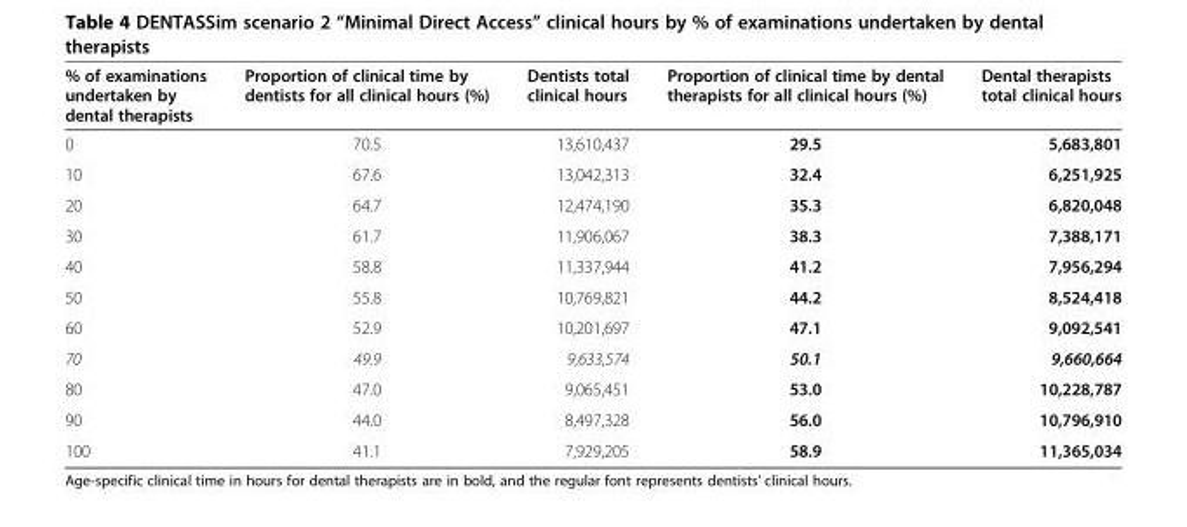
<table><thead><tr><td>% of examinations undertaken by dental therapists</td><td>Proportion of clinical time by dentists for all clinical hours (%)</td><td>Dentists total clinical hours</td><td>Proportion of clinical time by dental therapists for all clinical hours (%)</td><td>Dental therapists total clinical hours</td></tr></thead><tbody><tr><td>0</td><td>70.5</td><td>13,610,437</td><td>29.5</td><td>5,683,801</td></tr><tr><td>10</td><td>67.6</td><td>13,042,313</td><td>32.4</td><td>6,251,925</td></tr><tr><td>20</td><td>64.7</td><td>12,474,190</td><td>35.3</td><td>6,820,048</td></tr><tr><td>30</td><td>61.7</td><td>11,906,067</td><td>38.3</td><td>7,388,171</td></tr><tr><td>40</td><td>58.8</td><td>11,337,944</td><td>41.2</td><td>7,956,294</td></tr><tr><td>50</td><td>55.8</td><td>10,769,821</td><td>44.2</td><td>8,524,418</td></tr><tr><td>60</td><td>52.9</td><td>10,201,697</td><td>47.1</td><td>9,092,541</td></tr><tr><td>70</td><td>49.9</td><td>9,633,574</td><td>50.1</td><td>9,660,664</td></tr><tr><td>80</td><td>47.0</td><td>9,065,451</td><td>53.0</td><td>10,228,787</td></tr><tr><td>90</td><td>44.0</td><td>8,497,328</td><td>56.0</td><td>10,796,910</td></tr><tr><td>100</td><td>41.1</td><td>7,929,205</td><td>58.9</td><td>11,365,034</td></tr></tbody></table>